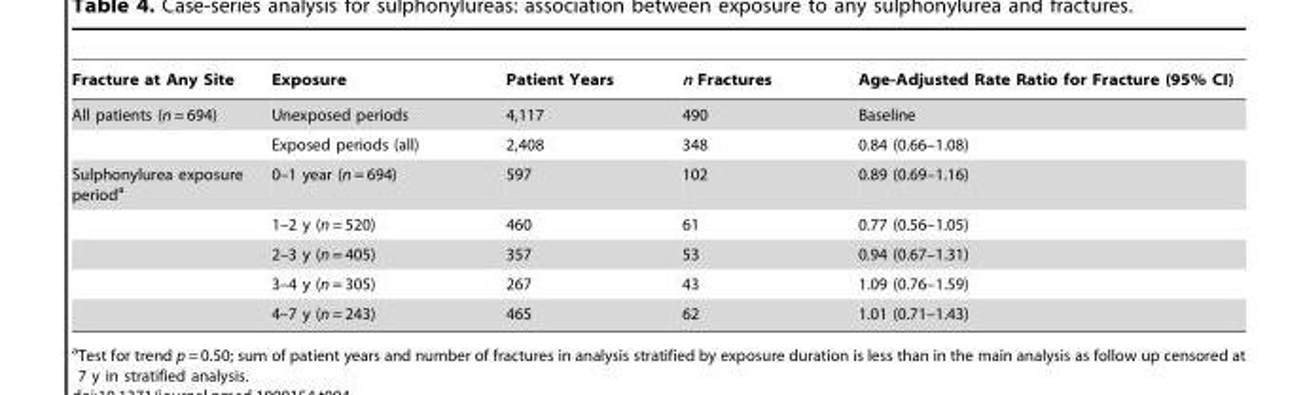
<table><thead><tr><td>Fracture at Any Site</td><td>Exposure</td><td>Patient Years</td><td>n Fractures</td><td>Age-Adjusted Rate Ratio for Fracture (95% CI)</td></tr></thead><tbody><tr><td rowspan="2">All patients (n = 694)</td><td>Unexposed periods</td><td>4,117</td><td>490</td><td>Baseline</td></tr><tr><td>Exposed periods (all)</td><td>2,408</td><td>348</td><td>0.84 (0.66–1.08)</td></tr><tr><td rowspan="5">Sulphonylurea exposure period<sup>a</sup></td><td>0–1 year (n = 694)</td><td>597</td><td>102</td><td>0.89 (0.69–1.16)</td></tr><tr><td>1–2 y (n = 520)</td><td>460</td><td>61</td><td>0.77 (0.56–1.05)</td></tr><tr><td>2–3 y (n = 405)</td><td>357</td><td>53</td><td>0.94 (0.67–1.31)</td></tr><tr><td>3–4 y (n = 305)</td><td>267</td><td>43</td><td>1.09 (0.76–1.59)</td></tr><tr><td>4–7 y (n = 243)</td><td>465</td><td>62</td><td>1.01 (0.71–1.43)</td></tr></tbody></table>